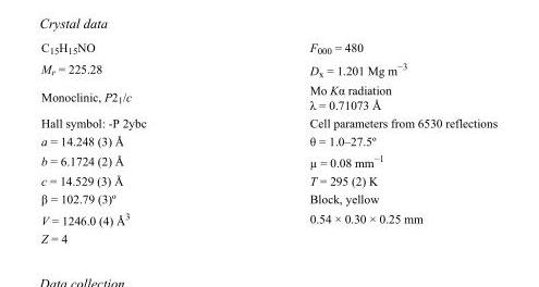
<table><tbody><tr><td>C<sub>15</sub>H<sub>15</sub>NO</td><td>F<sub>000</sub> = 480</td></tr><tr><td>M<sub>r</sub> = 225.28</td><td>D<sub>x</sub> = 1.201 Mg m<sup>−3</sup></td></tr><tr><td>Monoclinic, P2<sub>1</sub>/c</td><td>Mo Kα radiation λ = 0.71073 Å</td></tr><tr><td>Hall symbol: -P 2ybc</td><td>Cell parameters from 6530 reflections</td></tr><tr><td>a = 14.248 (3) Å</td><td>θ = 1.0–27.5º</td></tr><tr><td>b = 6.1724 (2) Å</td><td>µ = 0.08 mm<sup>−1</sup></td></tr><tr><td>c = 14.529 (3) Å</td><td>T = 295 (2) K</td></tr><tr><td>β = 102.79 (3)º</td><td>Block, yellow</td></tr><tr><td>V = 1246.0 (4) Å<sup>3</sup></td><td>0.54 × 0.30 × 0.25 mm</td></tr><tr><td>Z = 4</td><td></td></tr></tbody></table>